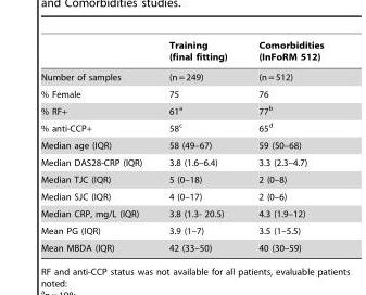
<table><thead><tr><td></td><td>Training (final fitting)</td><td>Comorbidities (InFoRM 512)</td></tr></thead><tbody><tr><td>Number of samples</td><td>(n = 249)</td><td>(n = 512)</td></tr><tr><td>% Female</td><td>75</td><td>76</td></tr><tr><td>% RF+</td><td>61<sup>a</sup></td><td>77<sup>b</sup></td></tr><tr><td>% anti-CCP+</td><td>58<sup>c</sup></td><td>65<sup>d</sup></td></tr><tr><td>Median age (IQR)</td><td>58 (49–67)</td><td>59 (50–68)</td></tr><tr><td>Median DAS28-CRP (IQR)</td><td>3.8 (1.6–6.4)</td><td>3.3 (2.3–4.7)</td></tr><tr><td>Median TJC (IQR)</td><td>5 (0–18)</td><td>2 (0–8)</td></tr><tr><td>Median SJC (IQR)</td><td>4 (0–17)</td><td>2 (0–6)</td></tr><tr><td>Median CRP, mg/L (IQR)</td><td>3.8 (1.3- 20.5)</td><td>4.3 (1.9–12)</td></tr><tr><td>Mean PG (IQR)</td><td>3.9 (1–7)</td><td>3.5 (1–5.5)</td></tr><tr><td>Mean MBDA (IQR)</td><td>42 (33–50)</td><td>40 (30–59)</td></tr></tbody></table>